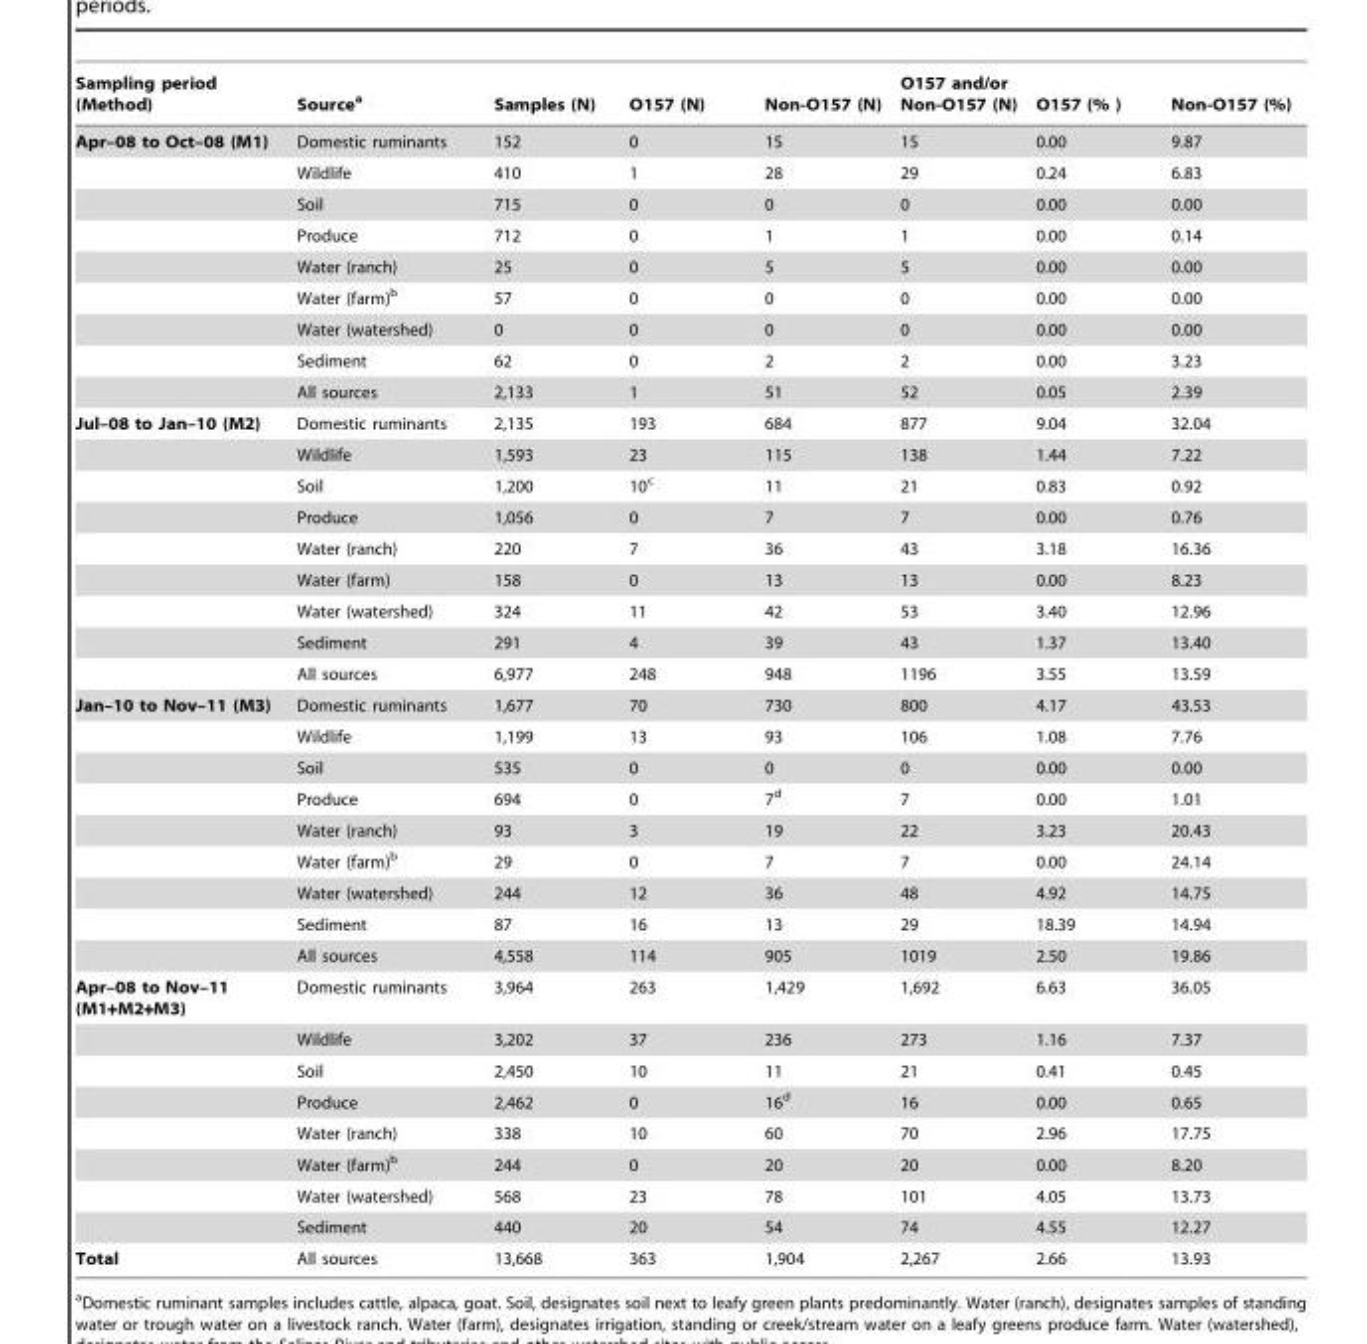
<table><thead><tr><td>Sampling period (Method)</td><td>Source<sup>a</sup></td><td>Samples (N)</td><td>O157 (N)</td><td>Non-O157 (N)</td><td>O157 and/or Non-O157 (N)</td><td>O157 (% )</td><td>Non-O157 (%)</td></tr></thead><tbody><tr><td rowspan="9">Apr–08 to Oct–08 (M1)</td><td>Domestic ruminants</td><td>152</td><td>0</td><td>15</td><td>15</td><td>0.00</td><td>9.87</td></tr><tr><td>Wildlife</td><td>410</td><td>1</td><td>28</td><td>29</td><td>0.24</td><td>6.83</td></tr><tr><td>Soil</td><td>715</td><td>0</td><td>0</td><td>0</td><td>0.00</td><td>0.00</td></tr><tr><td>Produce</td><td>712</td><td>0</td><td>1</td><td>1</td><td>0.00</td><td>0.14</td></tr><tr><td>Water (ranch)</td><td>25</td><td>0</td><td>5</td><td>5</td><td>0.00</td><td>0.00</td></tr><tr><td>Water (farm)<sup>b</sup></td><td>57</td><td>0</td><td>0</td><td>0</td><td>0.00</td><td>0.00</td></tr><tr><td>Water (watershed)</td><td>0</td><td>0</td><td>0</td><td>0</td><td>0.00</td><td>0.00</td></tr><tr><td>Sediment</td><td>62</td><td>0</td><td>2</td><td>2</td><td>0.00</td><td>3.23</td></tr><tr><td>All sources</td><td>2,133</td><td>1</td><td>51</td><td>52</td><td>0.05</td><td>2.39</td></tr><tr><td rowspan="9">Jul–08 to Jan–10 (M2)</td><td>Domestic ruminants</td><td>2,135</td><td>193</td><td>684</td><td>877</td><td>9.04</td><td>32.04</td></tr><tr><td>Wildlife</td><td>1,593</td><td>23</td><td>115</td><td>138</td><td>1.44</td><td>7.22</td></tr><tr><td>Soil</td><td>1,200</td><td>10<sup>c</sup></td><td>11</td><td>21</td><td>0.83</td><td>0.92</td></tr><tr><td>Produce</td><td>1,056</td><td>0</td><td>7</td><td>7</td><td>0.00</td><td>0.76</td></tr><tr><td>Water (ranch)</td><td>220</td><td>7</td><td>36</td><td>43</td><td>3.18</td><td>16.36</td></tr><tr><td>Water (farm)</td><td>158</td><td>0</td><td>13</td><td>13</td><td>0.00</td><td>8.23</td></tr><tr><td>Water (watershed)</td><td>324</td><td>11</td><td>42</td><td>53</td><td>3.40</td><td>12.96</td></tr><tr><td>Sediment</td><td>291</td><td>4</td><td>39</td><td>43</td><td>1.37</td><td>13.40</td></tr><tr><td>All sources</td><td>6,977</td><td>248</td><td>948</td><td>1196</td><td>3.55</td><td>13.59</td></tr><tr><td rowspan="9">Jan–10 to Nov–11 (M3)</td><td>Domestic ruminants</td><td>1,677</td><td>70</td><td>730</td><td>800</td><td>4.17</td><td>43.53</td></tr><tr><td>Wildlife</td><td>1,199</td><td>13</td><td>93</td><td>106</td><td>1.08</td><td>7.76</td></tr><tr><td>Soil</td><td>535</td><td>0</td><td>0</td><td>0</td><td>0.00</td><td>0.00</td></tr><tr><td>Produce</td><td>694</td><td>0</td><td>7<sup>d</sup></td><td>7</td><td>0.00</td><td>1.01</td></tr><tr><td>Water (ranch)</td><td>93</td><td>3</td><td>19</td><td>22</td><td>3.23</td><td>20.43</td></tr><tr><td>Water (farm)<sup>b</sup></td><td>29</td><td>0</td><td>7</td><td>7</td><td>0.00</td><td>24.14</td></tr><tr><td>Water (watershed)</td><td>244</td><td>12</td><td>36</td><td>48</td><td>4.92</td><td>14.75</td></tr><tr><td>Sediment</td><td>87</td><td>16</td><td>13</td><td>29</td><td>18.39</td><td>14.94</td></tr><tr><td>All sources</td><td>4,558</td><td>114</td><td>905</td><td>1019</td><td>2.50</td><td>19.86</td></tr><tr><td rowspan="8">Apr–08 to Nov–11 (M1+M2+M3)</td><td>Domestic ruminants</td><td>3,964</td><td>263</td><td>1,429</td><td>1,692</td><td>6.63</td><td>36.05</td></tr><tr><td>Wildlife</td><td>3,202</td><td>37</td><td>236</td><td>273</td><td>1.16</td><td>7.37</td></tr><tr><td>Soil</td><td>2,450</td><td>10</td><td>11</td><td>21</td><td>0.41</td><td>0.45</td></tr><tr><td>Produce</td><td>2,462</td><td>0</td><td>16<sup>d</sup></td><td>16</td><td>0.00</td><td>0.65</td></tr><tr><td>Water (ranch)</td><td>338</td><td>10</td><td>60</td><td>70</td><td>2.96</td><td>17.75</td></tr><tr><td>Water (farm)<sup>b</sup></td><td>244</td><td>0</td><td>20</td><td>20</td><td>0.00</td><td>8.20</td></tr><tr><td>Water (watershed)</td><td>568</td><td>23</td><td>78</td><td>101</td><td>4.05</td><td>13.73</td></tr><tr><td>Sediment</td><td>440</td><td>20</td><td>54</td><td>74</td><td>4.55</td><td>12.27</td></tr><tr><td>Total</td><td>All sources</td><td>13,668</td><td>363</td><td>1,904</td><td>2,267</td><td>2.66</td><td>13.93</td></tr></tbody></table>